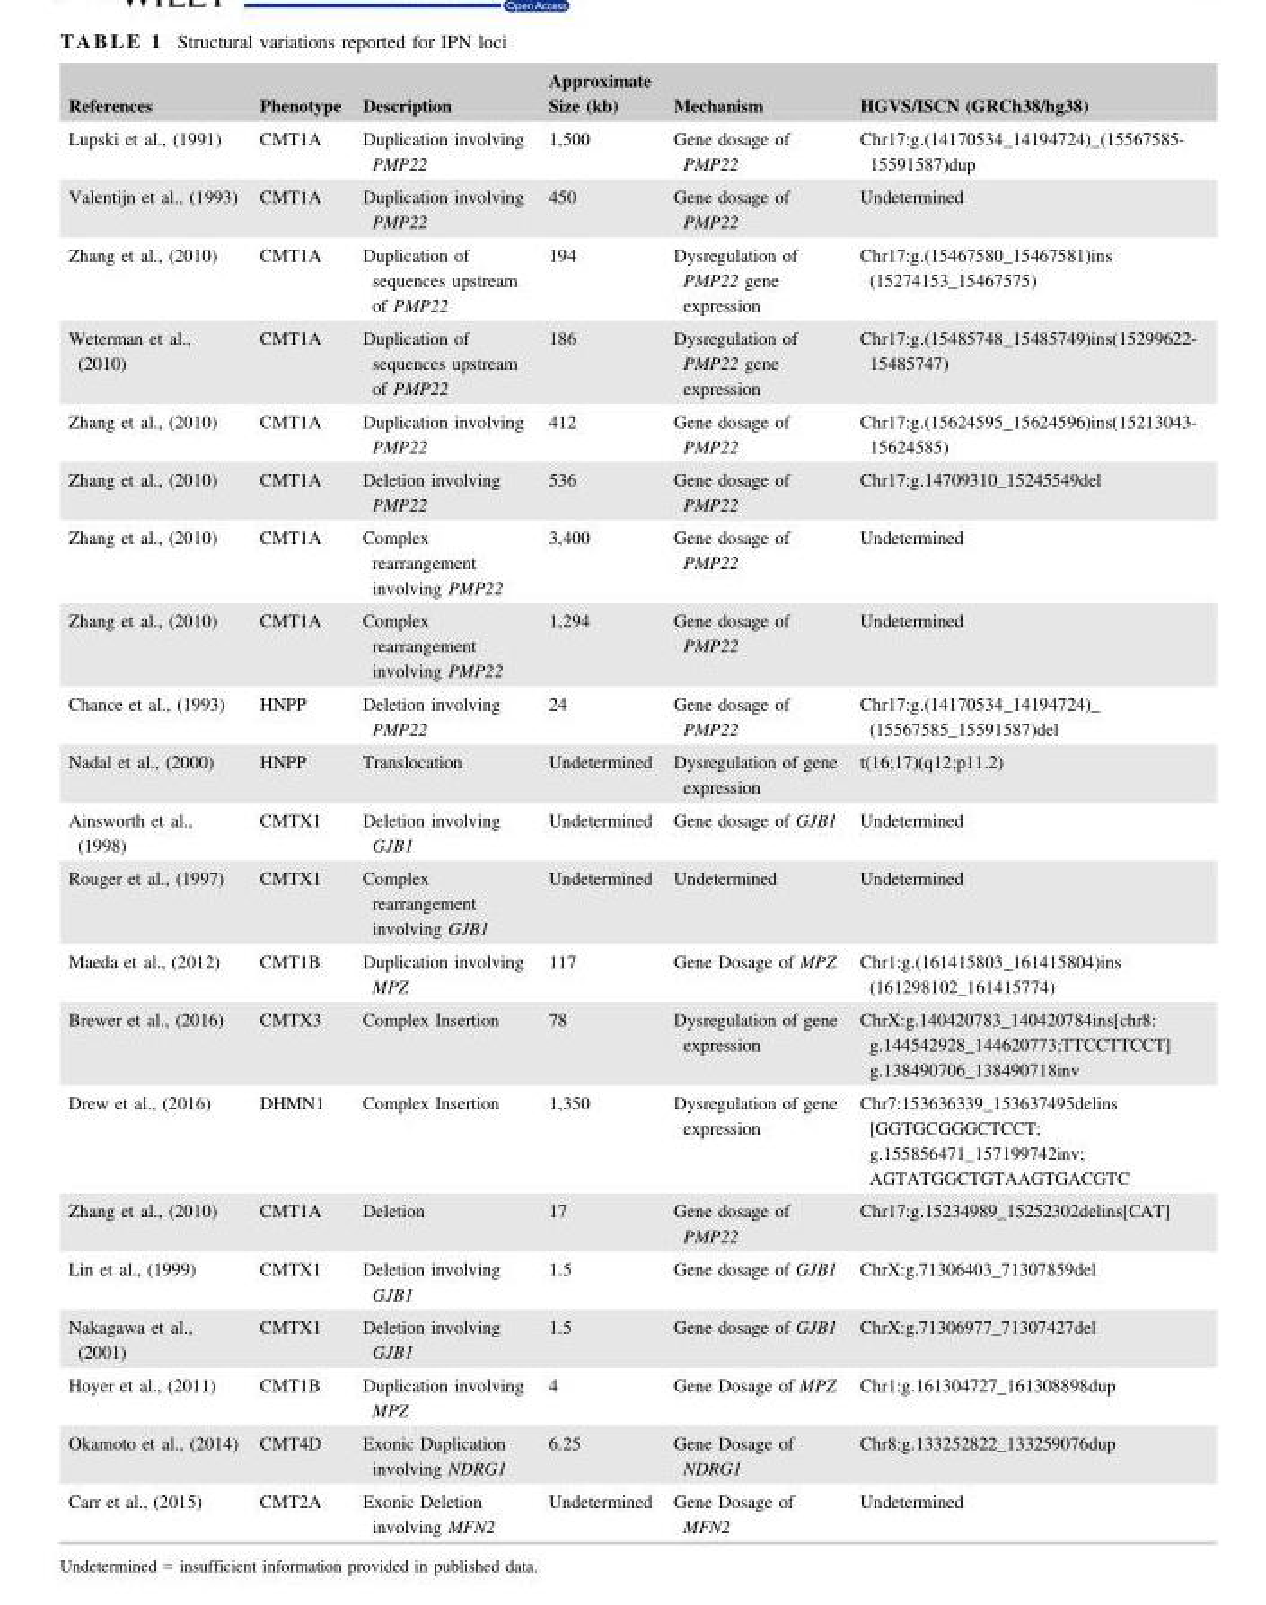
<table><thead><tr><td>References</td><td>Phenotype</td><td>Description</td><td>Approximate Size (kb)</td><td>Mechanism</td><td>HGVS/ISCN (GRCh38/hg38)</td></tr></thead><tbody><tr><td>Lupski et al., (1991)</td><td>CMT1A</td><td>Duplication involving PMP22</td><td>1,500</td><td>Gene dosage of PMP22</td><td>Chr17:g.(14170534_14194724)_(15567585- 15591587)dup</td></tr><tr><td>Valentijn et al., (1993)</td><td>CMT1A</td><td>Duplication involving PMP22</td><td>450</td><td>Gene dosage of PMP22</td><td>Undetermined</td></tr><tr><td>Zhang et al., (2010)</td><td>CMT1A</td><td>Duplication of sequences upstream of PMP22</td><td>194</td><td>Dysregulation of PMP22 gene expression</td><td>Chr17:g.(15467580_15467581)ins (15274153_15467575)</td></tr><tr><td>Weterman et al., (2010)</td><td>CMT1A</td><td>Duplication of sequences upstream of PMP22</td><td>186</td><td>Dysregulation of PMP22 gene expression</td><td>Chr17:g.(15485748_15485749)ins(15299622- 15485747)</td></tr><tr><td>Zhang et al., (2010)</td><td>CMT1A</td><td>Duplication involving PMP22</td><td>412</td><td>Gene dosage of PMP22</td><td>Chr17:g.(15624595_15624596)ins(15213043- 15624585)</td></tr><tr><td>Zhang et al., (2010)</td><td>CMT1A</td><td>Deletion involving PMP22</td><td>536</td><td>Gene dosage of PMP22</td><td>Chr17:g.14709310_15245549del</td></tr><tr><td>Zhang et al., (2010)</td><td>CMT1A</td><td>Complex rearrangement involving PMP22</td><td>3,400</td><td>Gene dosage of PMP22</td><td>Undetermined</td></tr><tr><td>Zhang et al., (2010)</td><td>CMT1A</td><td>Complex rearrangement involving PMP22</td><td>1,294</td><td>Gene dosage of PMP22</td><td>Undetermined</td></tr><tr><td>Chance et al., (1993)</td><td>HNPP</td><td>Deletion involving PMP22</td><td>24</td><td>Gene dosage of PMP22</td><td>Chr17:g.(14170534_14194724)_ (15567585_15591587)del</td></tr><tr><td>Nadal et al., (2000)</td><td>HNPP</td><td>Translocation</td><td>Undetermined</td><td>Dysregulation of gene expression</td><td>t(16;17)(q12;p11.2)</td></tr><tr><td>Ainsworth et al., (1998)</td><td>CMTX1</td><td>Deletion involving GJB1</td><td>Undetermined</td><td>Gene dosage of GJB1</td><td>Undetermined</td></tr><tr><td>Rouger et al., (1997)</td><td>CMTX1</td><td>Complex rearrangement involving GJB1</td><td>Undetermined</td><td>Undetermined</td><td>Undetermined</td></tr><tr><td>Maeda et al., (2012)</td><td>CMT1B</td><td>Duplication involving MPZ</td><td>117</td><td>Gene Dosage of MPZ</td><td>Chr1:g.(161415803_161415804)ins (161298102_161415774)</td></tr><tr><td>Brewer et al., (2016)</td><td>CMTX3</td><td>Complex Insertion</td><td>78</td><td>Dysregulation of gene expression</td><td>ChrX:g.140420783_140420784ins[chr8: g.144542928_144620773;TTCCTTCCT] g.138490706_138490718inv</td></tr><tr><td>Drew et al., (2016)</td><td>DHMN1</td><td>Complex Insertion</td><td>1,350</td><td>Dysregulation of gene expression</td><td>Chr7:153636339_153637495delins [GGTGCGGGCTCCT; g.155856471_157199742inv; AGTATGGCTGTAAGTGACGTC</td></tr><tr><td>Zhang et al., (2010)</td><td>CMT1A</td><td>Deletion</td><td>17</td><td>Gene dosage of PMP22</td><td>Chr17:g.15234989_15252302delins[CAT]</td></tr><tr><td>Lin et al., (1999)</td><td>CMTX1</td><td>Deletion involving GJB1</td><td>1.5</td><td>Gene dosage of GJB1</td><td>ChrX:g.71306403_71307859del</td></tr><tr><td>Nakagawa et al., (2001)</td><td>CMTX1</td><td>Deletion involving GJB1</td><td>1.5</td><td>Gene dosage of GJB1</td><td>ChrX:g.71306977_71307427del</td></tr><tr><td>Hoyer et al., (2011)</td><td>CMT1B</td><td>Duplication involving MPZ</td><td>4</td><td>Gene Dosage of MPZ</td><td>Chr1:g.161304727_161308898dup</td></tr><tr><td>Okamoto et al., (2014)</td><td>CMT4D</td><td>Exonic Duplication involving NDRG1</td><td>6.25</td><td>Gene Dosage of NDRG1</td><td>Chr8:g.133252822_133259076dup</td></tr><tr><td>Carr et al., (2015)</td><td>CMT2A</td><td>Exonic Deletion involving MFN2</td><td>Undetermined</td><td>Gene Dosage of MFN2</td><td>Undetermined</td></tr></tbody></table>